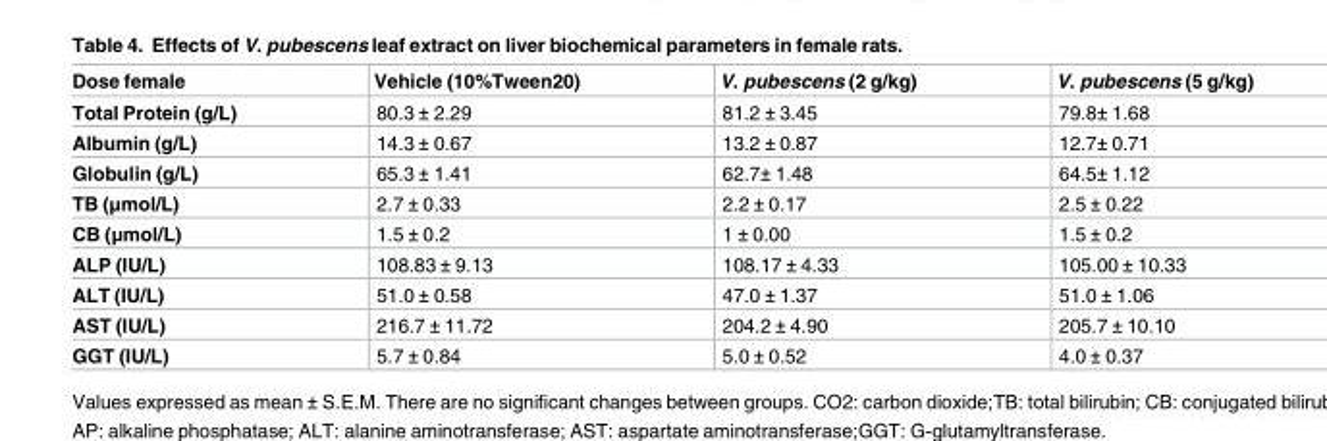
<table><thead><tr><td>Dose female</td><td>Vehicle (10%Tween20)</td><td>V. pubescens (2 g/kg)</td><td>V. pubescens (5 g/kg)</td></tr></thead><tbody><tr><td>Total Protein (g/L)</td><td>80.3 ± 2.29</td><td>81.2 ± 3.45</td><td>79.8± 1.68</td></tr><tr><td>Albumin (g/L)</td><td>14.3 ± 0.67</td><td>13.2 ± 0.87</td><td>12.7± 0.71</td></tr><tr><td>Globulin (g/L)</td><td>65.3 ± 1.41</td><td>62.7± 1.48</td><td>64.5± 1.12</td></tr><tr><td>TB (μmol/L)</td><td>2.7 ± 0.33</td><td>2.2 ± 0.17</td><td>2.5 ± 0.22</td></tr><tr><td>CB (μmol/L)</td><td>1.5 ± 0.2</td><td>1 ± 0.00</td><td>1.5 ± 0.2</td></tr><tr><td>ALP (IU/L)</td><td>108.83 ± 9.13</td><td>108.17 ± 4.33</td><td>105.00 ± 10.33</td></tr><tr><td>ALT (IU/L)</td><td>51.0 ± 0.58</td><td>47.0 ± 1.37</td><td>51.0 ± 1.06</td></tr><tr><td>AST (IU/L)</td><td>216.7 ± 11.72</td><td>204.2 ± 4.90</td><td>205.7 ± 10.10</td></tr><tr><td>GGT (IU/L)</td><td>5.7 ± 0.84</td><td>5.0 ± 0.52</td><td>4.0 ± 0.37</td></tr></tbody></table>